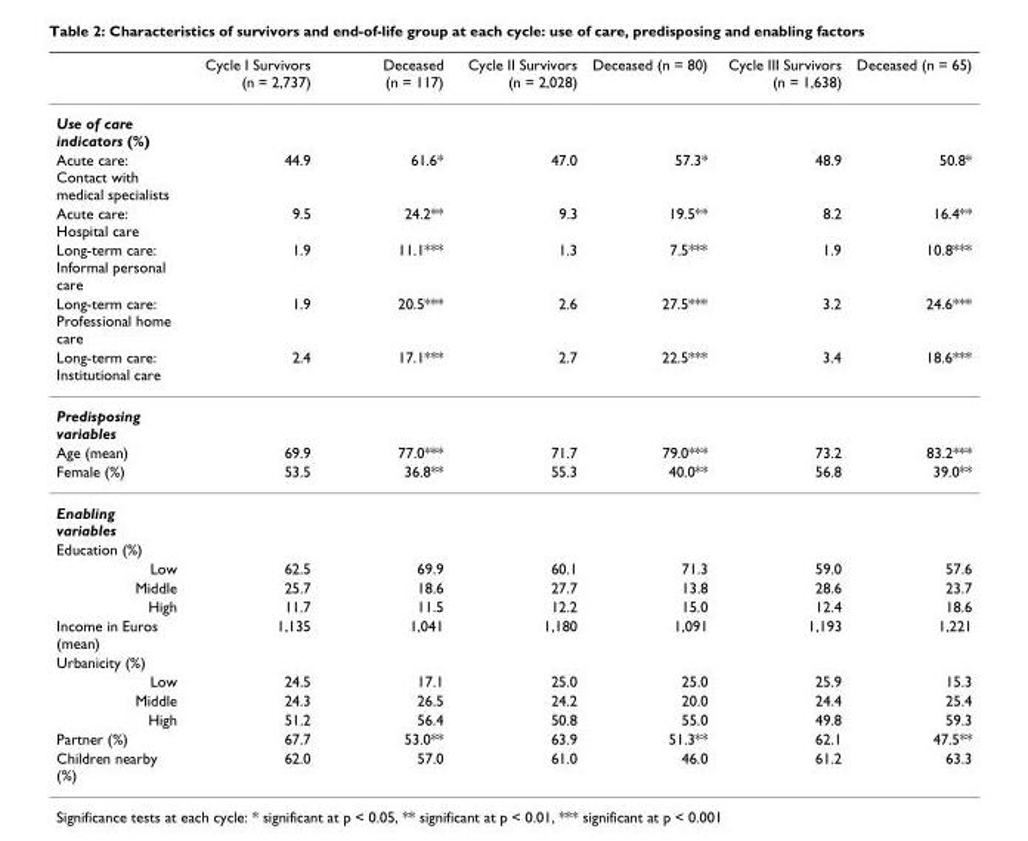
<table><thead><tr><td></td><td>Cycle I Survivors (n = 2,737)</td><td>Deceased (n = 117)</td><td>Cycle II Survivors (n = 2,028)</td><td>Deceased (n = 80)</td><td>Cycle III Survivors (n = 1,638)</td><td>Deceased (n = 65)</td></tr></thead><tbody><tr><td colspan="7">Use of care indicators (%)</td></tr><tr><td>Acute care: Contact with medical specialists</td><td>44.9</td><td>61.6*</td><td>47.0</td><td>57.3*</td><td>48.9</td><td>50.8*</td></tr><tr><td>Acute care: Hospital care</td><td>9.5</td><td>24.2**</td><td>9.3</td><td>19.5**</td><td>8.2</td><td>16.4**</td></tr><tr><td>Long-term care: Informal personal care</td><td>1.9</td><td>11.1***</td><td>1.3</td><td>7.5***</td><td>1.9</td><td>10.8***</td></tr><tr><td>Long-term care: Professional home care</td><td>1.9</td><td>20.5***</td><td>2.6</td><td>27.5***</td><td>3.2</td><td>24.6***</td></tr><tr><td>Long-term care: Institutional care</td><td>2.4</td><td>17.1***</td><td>2.7</td><td>22.5***</td><td>3.4</td><td>18.6***</td></tr><tr><td colspan="7">Predisposing variables</td></tr><tr><td>Age (mean)</td><td>69.9</td><td>77.0***</td><td>71.7</td><td>79.0***</td><td>73.2</td><td>83.2***</td></tr><tr><td>Female (%)</td><td>53.5</td><td>36.8**</td><td>55.3</td><td>40.0**</td><td>56.8</td><td>39.0**</td></tr><tr><td colspan="7">Enabling variables</td></tr><tr><td colspan="7">Education (%)</td></tr><tr><td>Low</td><td>62.5</td><td>69.9</td><td>60.1</td><td>71.3</td><td>59.0</td><td>57.6</td></tr><tr><td>Middle</td><td>25.7</td><td>18.6</td><td>27.7</td><td>13.8</td><td>28.6</td><td>23.7</td></tr><tr><td>High</td><td>11.7</td><td>11.5</td><td>12.2</td><td>15.0</td><td>12.4</td><td>18.6</td></tr><tr><td>Income in Euros (mean)</td><td>1,135</td><td>1,041</td><td>1,180</td><td>1,091</td><td>1,193</td><td>1,221</td></tr><tr><td colspan="7">Urbanicity (%)</td></tr><tr><td>Low</td><td>24.5</td><td>17.1</td><td>25.0</td><td>25.0</td><td>25.9</td><td>15.3</td></tr><tr><td>Middle</td><td>24.3</td><td>26.5</td><td>24.2</td><td>20.0</td><td>24.4</td><td>25.4</td></tr><tr><td>High</td><td>51.2</td><td>56.4</td><td>50.8</td><td>55.0</td><td>49.8</td><td>59.3</td></tr><tr><td>Partner (%)</td><td>67.7</td><td>53.0**</td><td>63.9</td><td>51.3**</td><td>62.1</td><td>47.5**</td></tr><tr><td>Children nearby (%)</td><td>62.0</td><td>57.0</td><td>61.0</td><td>46.0</td><td>61.2</td><td>63.3</td></tr></tbody></table>